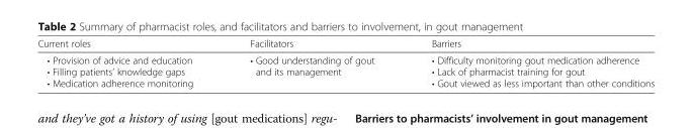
<table><thead><tr><td>Current roles</td><td>Facilitators</td><td>Barriers</td></tr></thead><tbody><tr><td>• Provision of advice and education • Filling patients’ knowledge gaps • Medication adherence monitoring</td><td>• Good understanding of gout and its management</td><td>• Difficulty monitoring gout medication adherence • Lack of pharmacist training for gout • Gout viewed as less important than other conditions</td></tr></tbody></table>